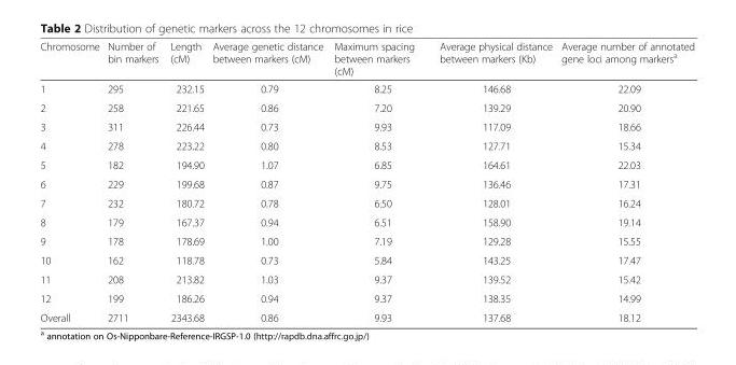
<table><thead><tr><td>Chromosome</td><td>Number of bin markers</td><td>Length (cM)</td><td>Average genetic distance between markers (cM)</td><td>Maximum spacing between markers (cM)</td><td>Average physical distance between markers (Kb)</td><td>Average number of annotated gene loci among markers<sup>a</sup></td></tr></thead><tbody><tr><td>1</td><td>295</td><td>232.15</td><td>0.79</td><td>8.25</td><td>146.68</td><td>22.09</td></tr><tr><td>2</td><td>258</td><td>221.65</td><td>0.86</td><td>7.20</td><td>139.29</td><td>20.90</td></tr><tr><td>3</td><td>311</td><td>226.44</td><td>0.73</td><td>9.93</td><td>117.09</td><td>18.66</td></tr><tr><td>4</td><td>278</td><td>223.22</td><td>0.80</td><td>8.53</td><td>127.71</td><td>15.34</td></tr><tr><td>5</td><td>182</td><td>194.90</td><td>1.07</td><td>6.85</td><td>164.61</td><td>22.03</td></tr><tr><td>6</td><td>229</td><td>199.68</td><td>0.87</td><td>9.75</td><td>136.46</td><td>17.31</td></tr><tr><td>7</td><td>232</td><td>180.72</td><td>0.78</td><td>6.50</td><td>128.01</td><td>16.24</td></tr><tr><td>8</td><td>179</td><td>167.37</td><td>0.94</td><td>6.51</td><td>158.90</td><td>19.14</td></tr><tr><td>9</td><td>178</td><td>178.69</td><td>1.00</td><td>7.19</td><td>129.28</td><td>15.55</td></tr><tr><td>10</td><td>162</td><td>118.78</td><td>0.73</td><td>5.84</td><td>143.25</td><td>17.47</td></tr><tr><td>11</td><td>208</td><td>213.82</td><td>1.03</td><td>9.37</td><td>139.52</td><td>15.42</td></tr><tr><td>12</td><td>199</td><td>186.26</td><td>0.94</td><td>9.37</td><td>138.35</td><td>14.99</td></tr><tr><td>Overall</td><td>2711</td><td>2343.68</td><td>0.86</td><td>9.93</td><td>137.68</td><td>18.12</td></tr></tbody></table>